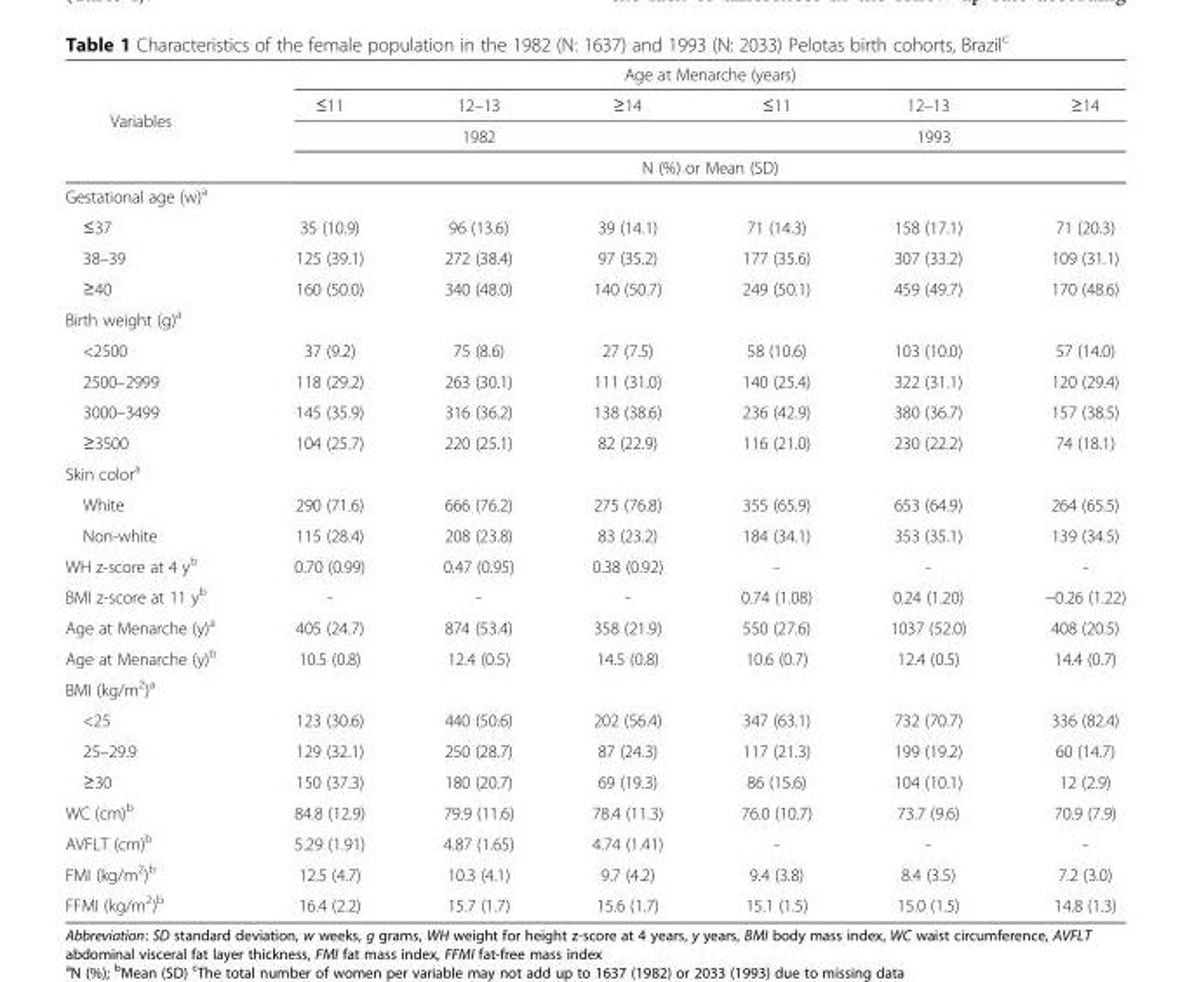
<table><thead><tr><td rowspan="4">Variables</td><td colspan="6">Age at Menarche (years)</td></tr><tr><td>≤11</td><td>12–13</td><td>≥14</td><td>≤11</td><td>12–13</td><td>≥14</td></tr><tr><td colspan="3">1982</td><td colspan="3">1993</td></tr><tr><td colspan="6">N (%) or Mean (SD)</td></tr></thead><tbody><tr><td colspan="7">Gestational age (w)<sup>a</sup></td></tr><tr><td>≤37</td><td>35 (10.9)</td><td>96 (13.6)</td><td>39 (14.1)</td><td>71 (14.3)</td><td>158 (17.1)</td><td>71 (20.3)</td></tr><tr><td>38–39</td><td>125 (39.1)</td><td>272 (38.4)</td><td>97 (35.2)</td><td>177 (35.6)</td><td>307 (33.2)</td><td>109 (31.1)</td></tr><tr><td>≥40</td><td>160 (50.0)</td><td>340 (48.0)</td><td>140 (50.7)</td><td>249 (50.1)</td><td>459 (49.7)</td><td>170 (48.6)</td></tr><tr><td colspan="7">Birth weight (g)<sup>a</sup></td></tr><tr><td>&lt;2500</td><td>37 (9.2)</td><td>75 (8.6)</td><td>27 (7.5)</td><td>58 (10.6)</td><td>103 (10.0)</td><td>57 (14.0)</td></tr><tr><td>2500–2999</td><td>118 (29.2)</td><td>263 (30.1)</td><td>111 (31.0)</td><td>140 (25.4)</td><td>322 (31.1)</td><td>120 (29.4)</td></tr><tr><td>3000–3499</td><td>145 (35.9)</td><td>316 (36.2)</td><td>138 (38.6)</td><td>236 (42.9)</td><td>380 (36.7)</td><td>157 (38.5)</td></tr><tr><td>≥3500</td><td>104 (25.7)</td><td>220 (25.1)</td><td>82 (22.9)</td><td>116 (21.0)</td><td>230 (22.2)</td><td>74 (18.1)</td></tr><tr><td colspan="7">Skin color<sup>a</sup></td></tr><tr><td>White</td><td>290 (71.6)</td><td>666 (76.2)</td><td>275 (76.8)</td><td>355 (65.9)</td><td>653 (64.9)</td><td>264 (65.5)</td></tr><tr><td>Non-white</td><td>115 (28.4)</td><td>208 (23.8)</td><td>83 (23.2)</td><td>184 (34.1)</td><td>353 (35.1)</td><td>139 (34.5)</td></tr><tr><td>WH z-score at 4 y<sup>b</sup></td><td>0.70 (0.99)</td><td>0.47 (0.95)</td><td>0.38 (0.92)</td><td>-</td><td>-</td><td>-</td></tr><tr><td>BMI z-score at 11 y<sup>b</sup></td><td>-</td><td>-</td><td>-</td><td>0.74 (1.08)</td><td>0.24 (1.20)</td><td>−0.26 (1.22)</td></tr><tr><td>Age at Menarche (y)<sup>a</sup></td><td>405 (24.7)</td><td>874 (53.4)</td><td>358 (21.9)</td><td>550 (27.6)</td><td>1037 (52.0)</td><td>408 (20.5)</td></tr><tr><td>Age at Menarche (y)<sup>b</sup></td><td>10.5 (0.8)</td><td>12.4 (0.5)</td><td>14.5 (0.8)</td><td>10.6 (0.7)</td><td>12.4 (0.5)</td><td>14.4 (0.7)</td></tr><tr><td colspan="7">BMI (kg/m<sup>2</sup>)<sup>a</sup></td></tr><tr><td>&lt;25</td><td>123 (30.6)</td><td>440 (50.6)</td><td>202 (56.4)</td><td>347 (63.1)</td><td>732 (70.7)</td><td>336 (82.4)</td></tr><tr><td>25–29.9</td><td>129 (32.1)</td><td>250 (28.7)</td><td>87 (24.3)</td><td>117 (21.3)</td><td>199 (19.2)</td><td>60 (14.7)</td></tr><tr><td>≥30</td><td>150 (37.3)</td><td>180 (20.7)</td><td>69 (19.3)</td><td>86 (15.6)</td><td>104 (10.1)</td><td>12 (2.9)</td></tr><tr><td>WC (cm)<sup>b</sup></td><td>84.8 (12.9)</td><td>79.9 (11.6)</td><td>78.4 (11.3)</td><td>76.0 (10.7)</td><td>73.7 (9.6)</td><td>70.9 (7.9)</td></tr><tr><td>AVFLT (cm)<sup>b</sup></td><td>5.29 (1.91)</td><td>4.87 (1.65)</td><td>4.74 (1.41)</td><td>-</td><td>-</td><td>-</td></tr><tr><td>FMI (kg/m<sup>2</sup>)<sup>b</sup></td><td>12.5 (4.7)</td><td>10.3 (4.1)</td><td>9.7 (4.2)</td><td>9.4 (3.8)</td><td>8.4 (3.5)</td><td>7.2 (3.0)</td></tr><tr><td>FFMI (kg/m<sup>2</sup>)<sup>b</sup></td><td>16.4 (2.2)</td><td>15.7 (1.7)</td><td>15.6 (1.7)</td><td>15.1 (1.5)</td><td>15.0 (1.5)</td><td>14.8 (1.3)</td></tr></tbody></table>